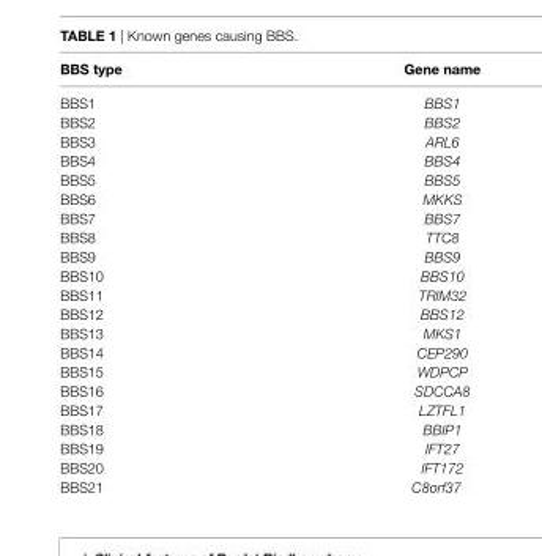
<table><thead><tr><td>BBS type</td><td>gene name</td></tr></thead><tbody><tr><td>BBS1</td><td>BBS1</td></tr><tr><td>BBS2</td><td>BBS2</td></tr><tr><td>BBS3</td><td>ARL6</td></tr><tr><td>BBS4</td><td>BBS4</td></tr><tr><td>BBS5</td><td>BBS5</td></tr><tr><td>BBS6</td><td>MKKS</td></tr><tr><td>BBS7</td><td>BBS7</td></tr><tr><td>BBS8</td><td>TTC8</td></tr><tr><td>BBS9</td><td>BBS9</td></tr><tr><td>BBS10</td><td>BBS10</td></tr><tr><td>BBS11</td><td>TRIM32</td></tr><tr><td>BBS12</td><td>BBS12</td></tr><tr><td>BBS13</td><td>MKS1</td></tr><tr><td>BBS14</td><td>CEP290</td></tr><tr><td>BBS15</td><td>WDPCP</td></tr><tr><td>BBS16</td><td>SDCCA8</td></tr><tr><td>BBS17</td><td>LZTFL1</td></tr><tr><td>BBS18</td><td>BBIP1</td></tr><tr><td>BBS19</td><td>IFT27</td></tr><tr><td>BBS20</td><td>IFT172</td></tr><tr><td>BBS21</td><td>C8orf37</td></tr></tbody></table>